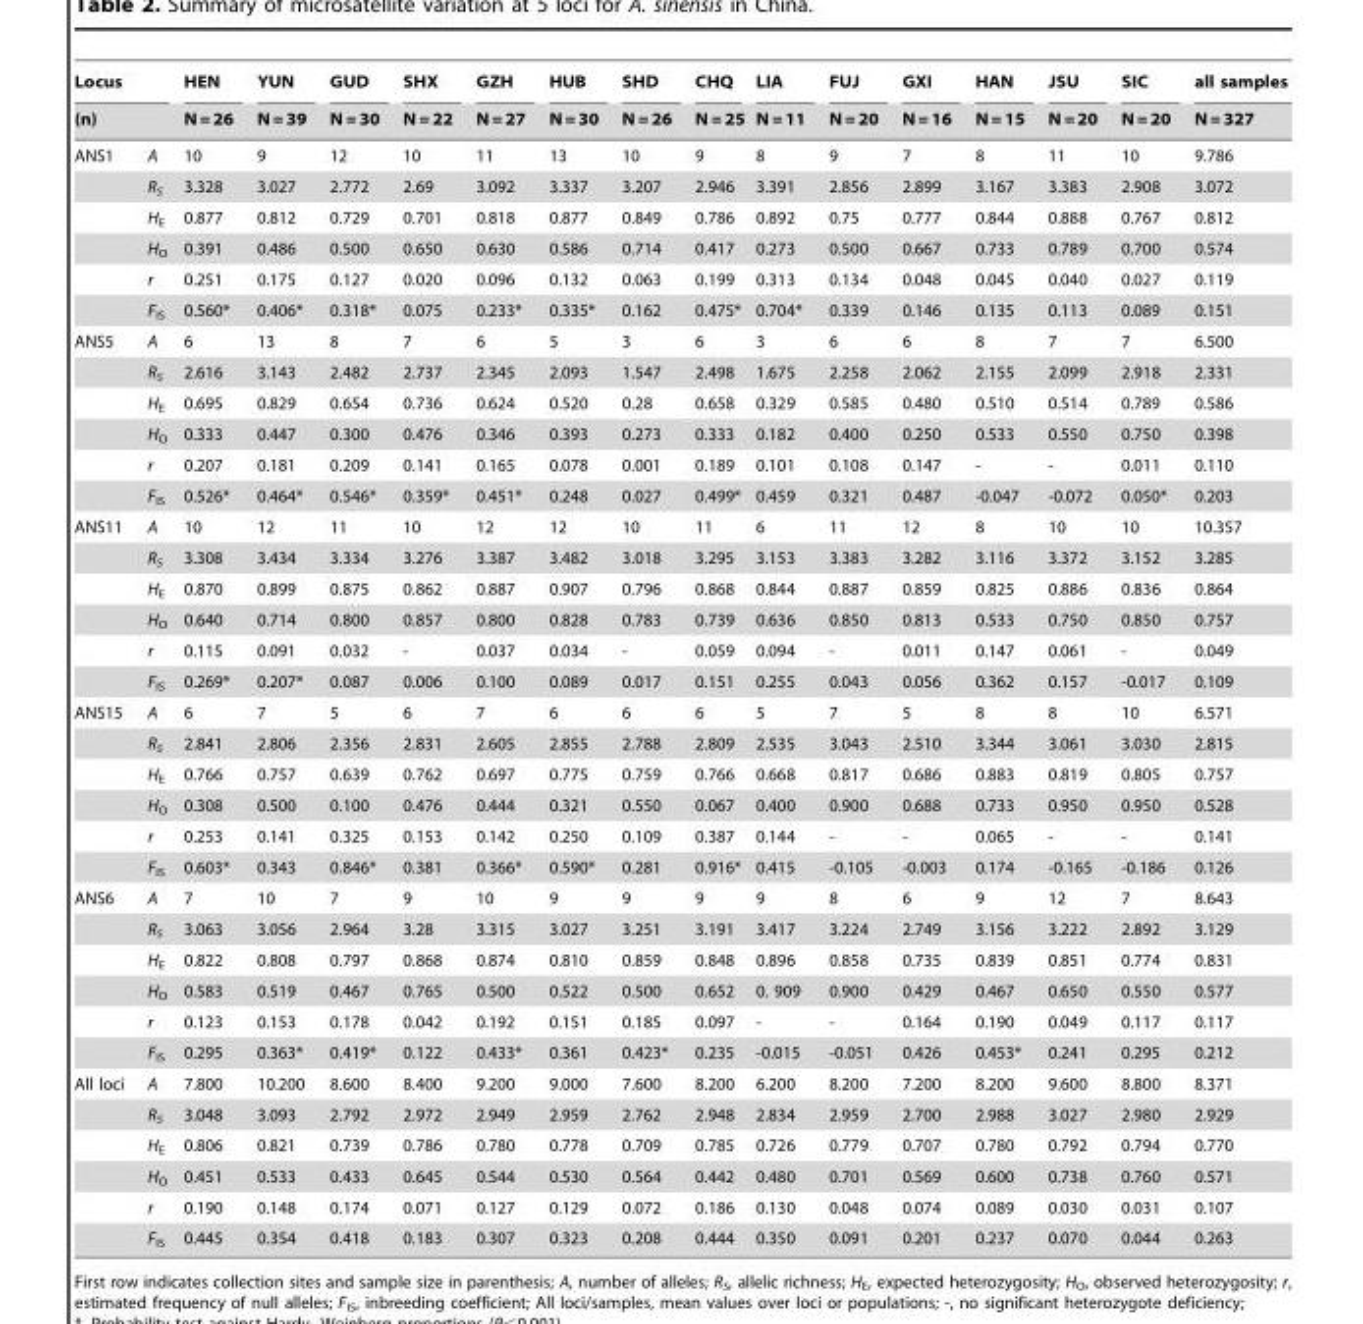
<table><thead><tr><td rowspan="2" colspan="2">Locus (n)</td><td rowspan="3">HEN N = 26 10</td><td rowspan="3">YUN N = 39 9</td><td rowspan="3">GUD N = 30 12</td><td rowspan="3">SHX N = 22 10</td><td rowspan="3">GZH N = 27 11</td><td rowspan="3">HUB N = 30 13</td><td rowspan="3">SHD N = 26 10</td><td rowspan="3">CHQ N = 25 9</td><td rowspan="3">LIA N = 11 8</td><td rowspan="3">FUJ N = 20 9</td><td rowspan="3">GXI N = 16 7</td><td rowspan="3">HAN N = 15 8</td><td rowspan="3">JSU N = 20 11</td><td rowspan="3">SIC N = 20 10</td><td rowspan="3">all samples N = 327 9.786</td></tr><tr></tr><tr><td>ANS1</td><td>A</td></tr></thead><tbody><tr><td></td><td>R<sub>S</sub></td><td>3.328</td><td>3.027</td><td>2.772</td><td>2.69</td><td>3.092</td><td>3.337</td><td>3.207</td><td>2.946</td><td>3.391</td><td>2.856</td><td>2.899</td><td>3.167</td><td>3.383</td><td>2.908</td><td>3.072</td></tr><tr><td></td><td>H<sub>E</sub></td><td>0.877</td><td>0.812</td><td>0.729</td><td>0.701</td><td>0.818</td><td>0.877</td><td>0.849</td><td>0.786</td><td>0.892</td><td>0.75</td><td>0.777</td><td>0.844</td><td>0.888</td><td>0.767</td><td>0.812</td></tr><tr><td></td><td>H<sub>O</sub></td><td>0.391</td><td>0.486</td><td>0.500</td><td>0.650</td><td>0.630</td><td>0.586</td><td>0.714</td><td>0.417</td><td>0.273</td><td>0.500</td><td>0.667</td><td>0.733</td><td>0.789</td><td>0.700</td><td>0.574</td></tr><tr><td></td><td>r</td><td>0.251</td><td>0.175</td><td>0.127</td><td>0.020</td><td>0.096</td><td>0.132</td><td>0.063</td><td>0.199</td><td>0.313</td><td>0.134</td><td>0.048</td><td>0.045</td><td>0.040</td><td>0.027</td><td>0.119</td></tr><tr><td></td><td>F<sub>IS</sub></td><td>0.560*</td><td>0.406*</td><td>0.318*</td><td>0.075</td><td>0.233*</td><td>0.335*</td><td>0.162</td><td>0.475*</td><td>0.704*</td><td>0.339</td><td>0.146</td><td>0.135</td><td>0.113</td><td>0.089</td><td>0.151</td></tr><tr><td rowspan="6">ANS5</td><td>A</td><td>6</td><td>13</td><td>8</td><td>7</td><td>6</td><td>5</td><td>3</td><td>6</td><td>3</td><td>6</td><td>6</td><td>8</td><td>7</td><td>7</td><td>6.500</td></tr><tr><td>R<sub>S</sub></td><td>2.616</td><td>3.143</td><td>2.482</td><td>2.737</td><td>2.345</td><td>2.093</td><td>1.547</td><td>2.498</td><td>1.675</td><td>2.258</td><td>2.062</td><td>2.155</td><td>2.099</td><td>2.918</td><td>2.331</td></tr><tr><td>H<sub>E</sub></td><td>0.695</td><td>0.829</td><td>0.654</td><td>0.736</td><td>0.624</td><td>0.520</td><td>0.28</td><td>0.658</td><td>0.329</td><td>0.585</td><td>0.480</td><td>0.510</td><td>0.514</td><td>0.789</td><td>0.586</td></tr><tr><td>H<sub>O</sub></td><td>0.333</td><td>0.447</td><td>0.300</td><td>0.476</td><td>0.346</td><td>0.393</td><td>0.273</td><td>0.333</td><td>0.182</td><td>0.400</td><td>0.250</td><td>0.533</td><td>0.550</td><td>0.750</td><td>0.398</td></tr><tr><td>r</td><td>0.207</td><td>0.181</td><td>0.209</td><td>0.141</td><td>0.165</td><td>0.078</td><td>0.001</td><td>0.189</td><td>0.101</td><td>0.108</td><td>0.147</td><td>-</td><td>-</td><td>0.011</td><td>0.110</td></tr><tr><td>F<sub>IS</sub></td><td>0.526*</td><td>0.464*</td><td>0.546*</td><td>0.359*</td><td>0.451*</td><td>0.248</td><td>0.027</td><td>0.499*</td><td>0.459</td><td>0.321</td><td>0.487</td><td>-0.047</td><td>-0.072</td><td>0.050*</td><td>0.203</td></tr><tr><td rowspan="6">ANS11</td><td>A</td><td>10</td><td>12</td><td>11</td><td>10</td><td>12</td><td>12</td><td>10</td><td>11</td><td>6</td><td>11</td><td>12</td><td>8</td><td>10</td><td>10</td><td>10.357</td></tr><tr><td>R<sub>S</sub></td><td>3.308</td><td>3.434</td><td>3.334</td><td>3.276</td><td>3.387</td><td>3.482</td><td>3.018</td><td>3.295</td><td>3.153</td><td>3.383</td><td>3.282</td><td>3.116</td><td>3.372</td><td>3.152</td><td>3.285</td></tr><tr><td>H<sub>E</sub></td><td>0.870</td><td>0.899</td><td>0.875</td><td>0.862</td><td>0.887</td><td>0.907</td><td>0.796</td><td>0.868</td><td>0.844</td><td>0.887</td><td>0.859</td><td>0.825</td><td>0.886</td><td>0.836</td><td>0.864</td></tr><tr><td>H<sub>O</sub></td><td>0.640</td><td>0.714</td><td>0.800</td><td>0.857</td><td>0.800</td><td>0.828</td><td>0.783</td><td>0.739</td><td>0.636</td><td>0.850</td><td>0.813</td><td>0.533</td><td>0.750</td><td>0.850</td><td>0.757</td></tr><tr><td>r</td><td>0.115</td><td>0.091</td><td>0.032</td><td>-</td><td>0.037</td><td>0.034</td><td>-</td><td>0.059</td><td>0.094</td><td>-</td><td>0.011</td><td>0.147</td><td>0.061</td><td>-</td><td>0.049</td></tr><tr><td>F<sub>IS</sub></td><td>0.269*</td><td>0.207*</td><td>0.087</td><td>0.006</td><td>0.100</td><td>0.089</td><td>0.017</td><td>0.151</td><td>0.255</td><td>0.043</td><td>0.056</td><td>0.362</td><td>0.157</td><td>-0.017</td><td>0.109</td></tr><tr><td rowspan="6">ANS15</td><td>A</td><td>6</td><td>7</td><td>5</td><td>6</td><td>7</td><td>6</td><td>6</td><td>6</td><td>5</td><td>7</td><td>5</td><td>8</td><td>8</td><td>10</td><td>6.571</td></tr><tr><td>R<sub>S</sub></td><td>2.841</td><td>2.806</td><td>2.356</td><td>2.831</td><td>2.605</td><td>2.855</td><td>2.788</td><td>2.809</td><td>2.535</td><td>3.043</td><td>2.510</td><td>3.344</td><td>3.061</td><td>3.030</td><td>2.815</td></tr><tr><td>H<sub>E</sub></td><td>0.766</td><td>0.757</td><td>0.639</td><td>0.762</td><td>0.697</td><td>0.775</td><td>0.759</td><td>0.766</td><td>0.668</td><td>0.817</td><td>0.686</td><td>0.883</td><td>0.819</td><td>0.805</td><td>0.757</td></tr><tr><td>H<sub>O</sub></td><td>0.308</td><td>0.500</td><td>0.100</td><td>0.476</td><td>0.444</td><td>0.321</td><td>0.550</td><td>0.067</td><td>0.400</td><td>0.900</td><td>0.688</td><td>0.733</td><td>0.950</td><td>0.950</td><td>0.528</td></tr><tr><td>r</td><td>0.253</td><td>0.141</td><td>0.325</td><td>0.153</td><td>0.142</td><td>0.250</td><td>0.109</td><td>0.387</td><td>0.144</td><td>-</td><td>-</td><td>0.065</td><td>-</td><td>-</td><td>0.141</td></tr><tr><td>F<sub>IS</sub></td><td>0.603*</td><td>0.343</td><td>0.846*</td><td>0.381</td><td>0.366*</td><td>0.590*</td><td>0.281</td><td>0.916*</td><td>0.415</td><td>-0.105</td><td>-0.003</td><td>0.174</td><td>-0.165</td><td>-0.186</td><td>0.126</td></tr><tr><td rowspan="6">ANS6</td><td>A</td><td>7</td><td>10</td><td>7</td><td>9</td><td>10</td><td>9</td><td>9</td><td>9</td><td>9</td><td>8</td><td>6</td><td>9</td><td>12</td><td>7</td><td>8.643</td></tr><tr><td>R<sub>S</sub></td><td>3.063</td><td>3.056</td><td>2.964</td><td>3.28</td><td>3.315</td><td>3.027</td><td>3.251</td><td>3.191</td><td>3.417</td><td>3.224</td><td>2.749</td><td>3.156</td><td>3.222</td><td>2.892</td><td>3.129</td></tr><tr><td>H<sub>E</sub></td><td>0.822</td><td>0.808</td><td>0.797</td><td>0.868</td><td>0.874</td><td>0.810</td><td>0.859</td><td>0.848</td><td>0.896</td><td>0.858</td><td>0.735</td><td>0.839</td><td>0.851</td><td>0.774</td><td>0.831</td></tr><tr><td>H<sub>O</sub></td><td>0.583</td><td>0.519</td><td>0.467</td><td>0.765</td><td>0.500</td><td>0.522</td><td>0.500</td><td>0.652</td><td>0. 909</td><td>0.900</td><td>0.429</td><td>0.467</td><td>0.650</td><td>0.550</td><td>0.577</td></tr><tr><td>r</td><td>0.123</td><td>0.153</td><td>0.178</td><td>0.042</td><td>0.192</td><td>0.151</td><td>0.185</td><td>0.097</td><td>-</td><td>-</td><td>0.164</td><td>0.190</td><td>0.049</td><td>0.117</td><td>0.117</td></tr><tr><td>F<sub>IS</sub></td><td>0.295</td><td>0.363*</td><td>0.419*</td><td>0.122</td><td>0.433*</td><td>0.361</td><td>0.423*</td><td>0.235</td><td>-0.015</td><td>-0.051</td><td>0.426</td><td>0.453*</td><td>0.241</td><td>0.295</td><td>0.212</td></tr><tr><td rowspan="6">All loci</td><td>A</td><td>7.800</td><td>10.200</td><td>8.600</td><td>8.400</td><td>9.200</td><td>9.000</td><td>7.600</td><td>8.200</td><td>6.200</td><td>8.200</td><td>7.200</td><td>8.200</td><td>9.600</td><td>8.800</td><td>8.371</td></tr><tr><td>R<sub>S</sub></td><td>3.048</td><td>3.093</td><td>2.792</td><td>2.972</td><td>2.949</td><td>2.959</td><td>2.762</td><td>2.948</td><td>2.834</td><td>2.959</td><td>2.700</td><td>2.988</td><td>3.027</td><td>2.980</td><td>2.929</td></tr><tr><td>H<sub>E</sub></td><td>0.806</td><td>0.821</td><td>0.739</td><td>0.786</td><td>0.780</td><td>0.778</td><td>0.709</td><td>0.785</td><td>0.726</td><td>0.779</td><td>0.707</td><td>0.780</td><td>0.792</td><td>0.794</td><td>0.770</td></tr><tr><td>H<sub>O</sub></td><td>0.451</td><td>0.533</td><td>0.433</td><td>0.645</td><td>0.544</td><td>0.530</td><td>0.564</td><td>0.442</td><td>0.480</td><td>0.701</td><td>0.569</td><td>0.600</td><td>0.738</td><td>0.760</td><td>0.571</td></tr><tr><td>r</td><td>0.190</td><td>0.148</td><td>0.174</td><td>0.071</td><td>0.127</td><td>0.129</td><td>0.072</td><td>0.186</td><td>0.130</td><td>0.048</td><td>0.074</td><td>0.089</td><td>0.030</td><td>0.031</td><td>0.107</td></tr><tr><td>F<sub>IS</sub></td><td>0.445</td><td>0.354</td><td>0.418</td><td>0.183</td><td>0.307</td><td>0.323</td><td>0.208</td><td>0.444</td><td>0.350</td><td>0.091</td><td>0.201</td><td>0.237</td><td>0.070</td><td>0.044</td><td>0.263</td></tr></tbody></table>